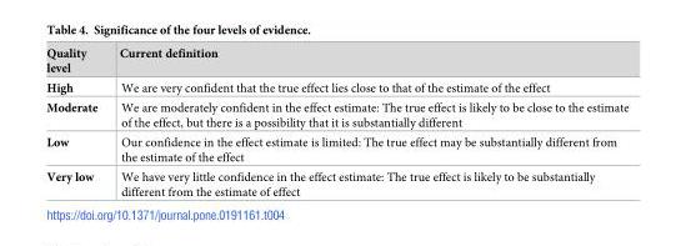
<table><thead><tr><td>Quality level</td><td>Current definition</td></tr></thead><tbody><tr><td>High</td><td>We are very confident that the true effect lies close to that of the estimate of the effect</td></tr><tr><td>Moderate</td><td>We are moderately confident in the effect estimate: The true effect is likely to be close to the estimate of the effect, but there is a possibility that it is substantially different</td></tr><tr><td>Low</td><td>Our confidence in the effect estimate is limited: The true effect may be substantially different from the estimate of the effect</td></tr><tr><td>Very low</td><td>We have very little confidence in the effect estimate: The true effect is likely to be substantially different from the estimate of effect</td></tr></tbody></table>